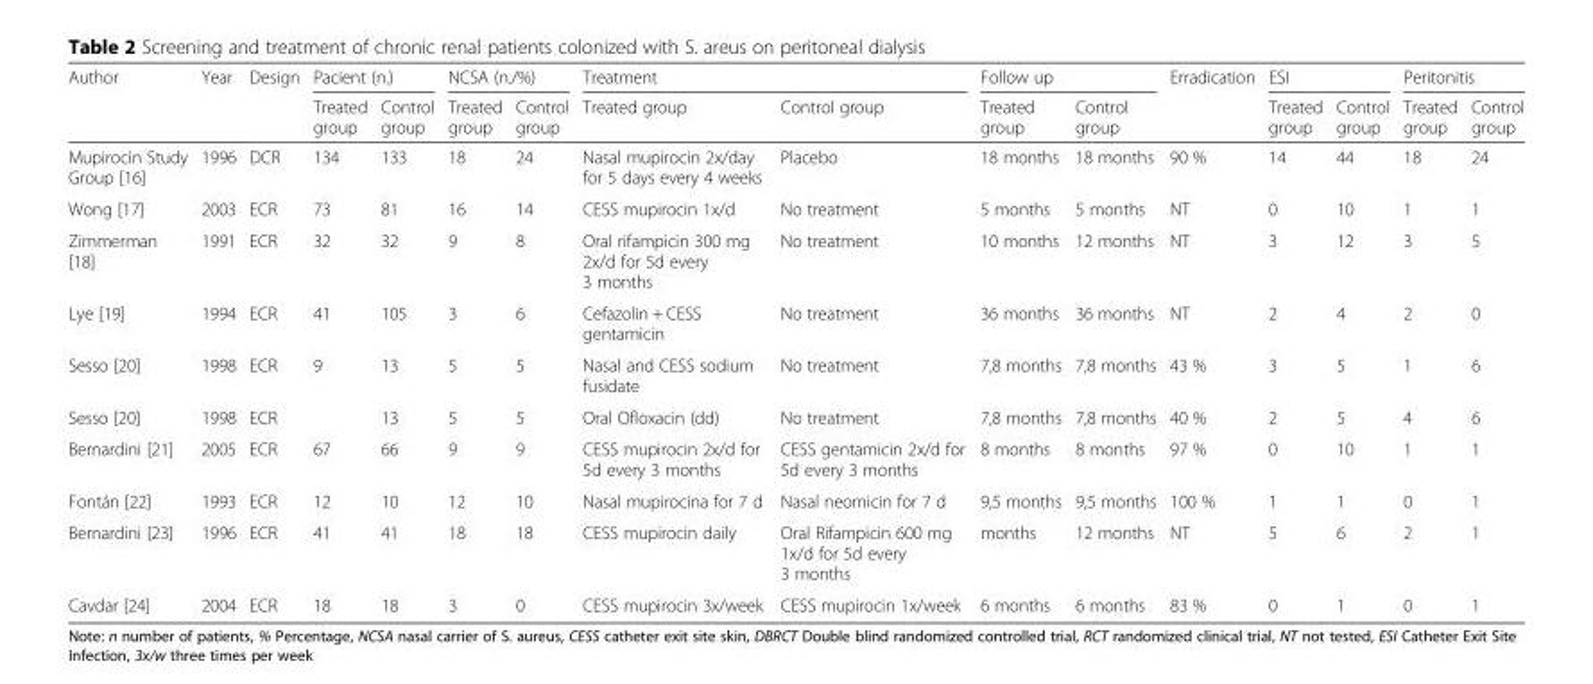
<table><thead><tr><td rowspan="2">Author</td><td rowspan="2">Year</td><td rowspan="2">Design</td><td colspan="2">Pacient (n.)</td><td colspan="2">NCSA (n./%)</td><td colspan="2">Treatment</td><td colspan="2">Follow up</td><td rowspan="2">Erradication</td><td colspan="2">ESI</td><td colspan="2">Peritonitis</td></tr><tr><td>Treated group</td><td>Control group</td><td>Treated group</td><td>Control group</td><td>Treated group</td><td>Control group</td><td>Treated group</td><td>Control group</td><td>Treated group</td><td>Control group</td><td>Treated group</td><td>Control group</td></tr></thead><tbody><tr><td>Mupirocin Study Group [16]</td><td>1996</td><td>DCR</td><td>134</td><td>133</td><td>18</td><td>24</td><td>Nasal mupirocin 2x/day for 5 days every 4 weeks</td><td>Placebo</td><td>18 months</td><td>18 months</td><td>90 %</td><td>14</td><td>44</td><td>18</td><td>24</td></tr><tr><td>Wong [17]</td><td>2003</td><td>ECR</td><td>73</td><td>81</td><td>16</td><td>14</td><td>CESS mupirocin 1x/d</td><td>No treatment</td><td>5 months</td><td>5 months</td><td>NT</td><td>0</td><td>10</td><td>1</td><td>1</td></tr><tr><td>Zimmerman [18]</td><td>1991</td><td>ECR</td><td>32</td><td>32</td><td>9</td><td>8</td><td>Oral rifampicin 300 mg 2x/d for 5d every 3 months</td><td>No treatment</td><td>10 months</td><td>12 months</td><td>NT</td><td>3</td><td>12</td><td>3</td><td>5</td></tr><tr><td>Lye [19]</td><td>1994</td><td>ECR</td><td>41</td><td>105</td><td>3</td><td>6</td><td>Cefazolin + CESS gentamicin</td><td>No treatment</td><td>36 months</td><td>36 months</td><td>NT</td><td>2</td><td>4</td><td>2</td><td>0</td></tr><tr><td>Sesso [20]</td><td>1998</td><td>ECR</td><td>9</td><td>13</td><td>5</td><td>5</td><td>Nasal and CESS sodium fusidate</td><td>No treatment</td><td>7,8 months</td><td>7,8 months</td><td>43 %</td><td>3</td><td>5</td><td>1</td><td>6</td></tr><tr><td>Sesso [20]</td><td>1998</td><td>ECR</td><td></td><td>13</td><td>5</td><td>5</td><td>Oral Ofloxacin (dd)</td><td>No treatment</td><td>7,8 months</td><td>7,8 months</td><td>40 %</td><td>2</td><td>5</td><td>4</td><td>6</td></tr><tr><td>Bernardini [21]</td><td>2005</td><td>ECR</td><td>67</td><td>66</td><td>9</td><td>9</td><td>CESS mupirocin 2x/d for 5d every 3 months</td><td>CESS gentamicin 2x/d for 5d every 3 months</td><td>8 months</td><td>8 months</td><td>97 %</td><td>0</td><td>10</td><td>1</td><td>1</td></tr><tr><td>Fontán [22]</td><td>1993</td><td>ECR</td><td>12</td><td>10</td><td>12</td><td>10</td><td>Nasal mupirocina for 7 d</td><td>Nasal neomicin for 7 d</td><td>9,5 months</td><td>9,5 months</td><td>100 %</td><td>1</td><td>1</td><td>0</td><td>1</td></tr><tr><td>Bernardini [23]</td><td>1996</td><td>ECR</td><td>41</td><td>41</td><td>18</td><td>18</td><td>CESS mupirocin daily</td><td>Oral Rifampicin 600 mg 1x/d for 5d every 3 months</td><td>months</td><td>12 months</td><td>NT</td><td>5</td><td>6</td><td>2</td><td>1</td></tr><tr><td>Cavdar [24]</td><td>2004</td><td>ECR</td><td>18</td><td>18</td><td>3</td><td>0</td><td>CESS mupirocin 3x/week</td><td>CESS mupirocin 1x/week</td><td>6 months</td><td>6 months</td><td>83 %</td><td>0</td><td>1</td><td>0</td><td>1</td></tr></tbody></table>